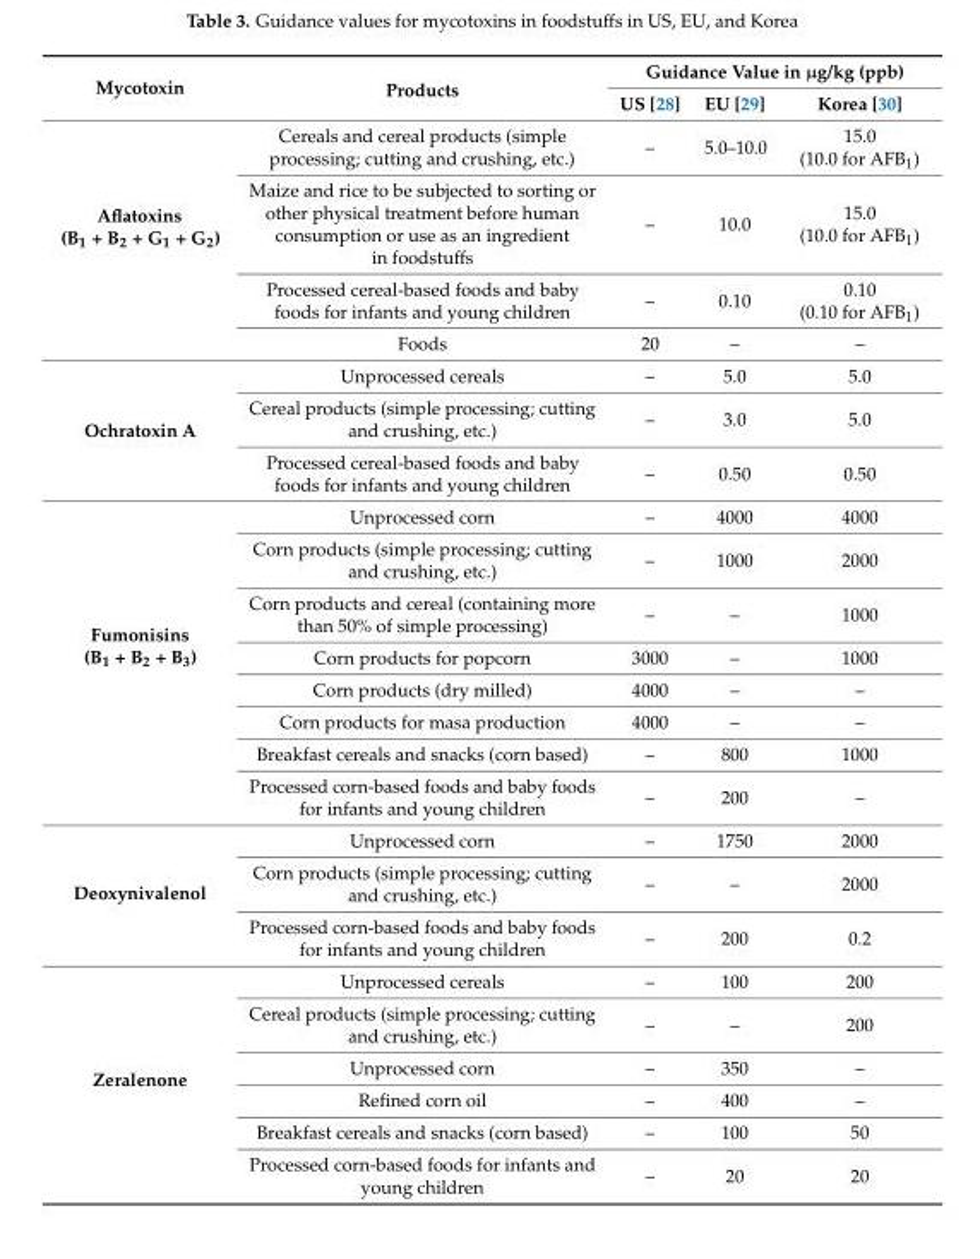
<table><thead><tr><td rowspan="2">Mycotoxin</td><td rowspan="2">Products</td><td colspan="3">Guidance Value in µg/kg (ppb)</td></tr><tr><td>US [28]</td><td>EU [29]</td><td>Korea [30]</td></tr></thead><tbody><tr><td rowspan="4">Aflatoxins (B<sub>1</sub> + B<sub>2</sub> + G<sub>1</sub> + G<sub>2</sub>)</td><td>Cereals and cereal products (simple processing; cutting and crushing, etc.)</td><td>–</td><td>5.0–10.0</td><td>15.0 (10.0 for AFB<sub>1</sub>)</td></tr><tr><td>Maize and rice to be subjected to sorting or other physical treatment before human consumption or use as an ingredient in foodstuffs</td><td>–</td><td>10.0</td><td>15.0 (10.0 for AFB<sub>1</sub>)</td></tr><tr><td>Processed cereal-based foods and baby foods for infants and young children</td><td>–</td><td>0.10</td><td>0.10 (0.10 for AFB<sub>1</sub>)</td></tr><tr><td>Foods</td><td>20</td><td>–</td><td>–</td></tr><tr><td rowspan="3">Ochratoxin A</td><td>Unprocessed cereals</td><td>–</td><td>5.0</td><td>5.0</td></tr><tr><td>Cereal products (simple processing; cutting and crushing, etc.)</td><td>–</td><td>3.0</td><td>5.0</td></tr><tr><td>Processed cereal-based foods and baby foods for infants and young children</td><td>–</td><td>0.50</td><td>0.50</td></tr><tr><td rowspan="8">Fumonisins (B<sub>1</sub> + B<sub>2</sub> + B<sub>3</sub>)</td><td>Unprocessed corn</td><td>–</td><td>4000</td><td>4000</td></tr><tr><td>Corn products (simple processing; cutting and crushing, etc.)</td><td>–</td><td>1000</td><td>2000</td></tr><tr><td>Corn products and cereal (containing more than 50% of simple processing)</td><td>–</td><td>–</td><td>1000</td></tr><tr><td>Corn products for popcorn</td><td>3000</td><td>–</td><td>1000</td></tr><tr><td>Corn products (dry milled)</td><td>4000</td><td>–</td><td>–</td></tr><tr><td>Corn products for masa production</td><td>4000</td><td>–</td><td>–</td></tr><tr><td>Breakfast cereals and snacks (corn based)</td><td>–</td><td>800</td><td>1000</td></tr><tr><td>Processed corn-based foods and baby foods for infants and young children</td><td>–</td><td>200</td><td>–</td></tr><tr><td rowspan="3">Deoxynivalenol</td><td>Unprocessed corn</td><td>–</td><td>1750</td><td>2000</td></tr><tr><td>Corn products (simple processing; cutting and crushing, etc.)</td><td>–</td><td>–</td><td>2000</td></tr><tr><td>Processed corn-based foods and baby foods for infants and young children</td><td>–</td><td>200</td><td>0.2</td></tr><tr><td rowspan="6">Zeralenone</td><td>Unprocessed cereals</td><td>–</td><td>100</td><td>200</td></tr><tr><td>Cereal products (simple processing; cutting and crushing, etc.)</td><td>–</td><td>–</td><td>200</td></tr><tr><td>Unprocessed corn</td><td>–</td><td>350</td><td>–</td></tr><tr><td>Refined corn oil</td><td>–</td><td>400</td><td>–</td></tr><tr><td>Breakfast cereals and snacks (corn based)</td><td>–</td><td>100</td><td>50</td></tr><tr><td>Processed corn-based foods for infants and young children</td><td>–</td><td>20</td><td>20</td></tr></tbody></table>